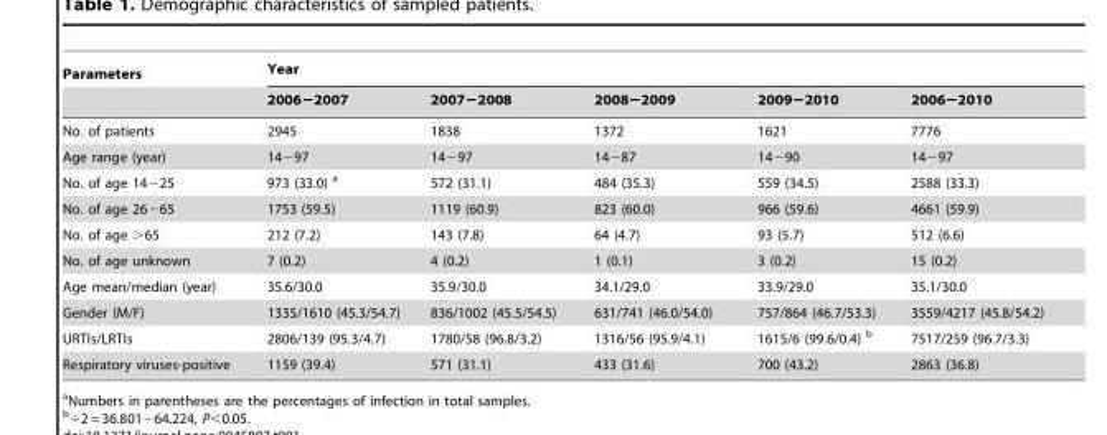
<table><thead><tr><td rowspan="2">Parameters</td><td colspan="5">Year</td></tr><tr><td>2006−2007</td><td>2007−2008</td><td>2008−2009</td><td>2009−2010</td><td>2006−2010</td></tr></thead><tbody><tr><td>No. of patients</td><td>2945</td><td>1838</td><td>1372</td><td>1621</td><td>7776</td></tr><tr><td>Age range (year)</td><td>14−97</td><td>14−97</td><td>14−87</td><td>14−90</td><td>14−97</td></tr><tr><td>No. of age 14−25</td><td>973 (33.0) a</td><td>572 (31.1)</td><td>484 (35.3)</td><td>559 (34.5)</td><td>2588 (33.3)</td></tr><tr><td>No. of age 26−65</td><td>1753 (59.5)</td><td>1119 (60.9)</td><td>823 (60.0)</td><td>966 (59.6)</td><td>4661 (59.9)</td></tr><tr><td>No. of age &gt;65</td><td>212 (7.2)</td><td>143 (7.8)</td><td>64 (4.7)</td><td>93 (5.7)</td><td>512 (6.6)</td></tr><tr><td>No. of age unknown</td><td>7 (0.2)</td><td>4 (0.2)</td><td>1 (0.1)</td><td>3 (0.2)</td><td>15 (0.2)</td></tr><tr><td>Age mean/median (year)</td><td>35.6/30.0</td><td>35.9/30.0</td><td>34.1/29.0</td><td>33.9/29.0</td><td>35.1/30.0</td></tr><tr><td>Gender (M/F)</td><td>1335/1610 (45.3/54.7)</td><td>836/1002 (45.5/54.5)</td><td>631/741 (46.0/54.0)</td><td>757/864 (46.7/53.3)</td><td>3559/4217 (45.8/54.2)</td></tr><tr><td>URTIs/LRTIs</td><td>2806/139 (95.3/4.7)</td><td>1780/58 (96.8/3.2)</td><td>1316/56 (95.9/4.1)</td><td>1615/6 (99.6/0.4) b</td><td>7517/259 (96.7/3.3)</td></tr><tr><td>Respiratory viruses-positive</td><td>1159 (39.4)</td><td>571 (31.1)</td><td>433 (31.6)</td><td>700 (43.2)</td><td>2863 (36.8)</td></tr></tbody></table>